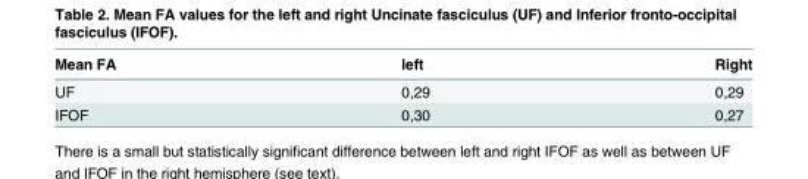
<table><thead><tr><td>Mean FA</td><td>left</td><td>Right</td></tr></thead><tbody><tr><td>UF</td><td>0,29</td><td>0,29</td></tr><tr><td>IFOF</td><td>0,30</td><td>0,27</td></tr></tbody></table>